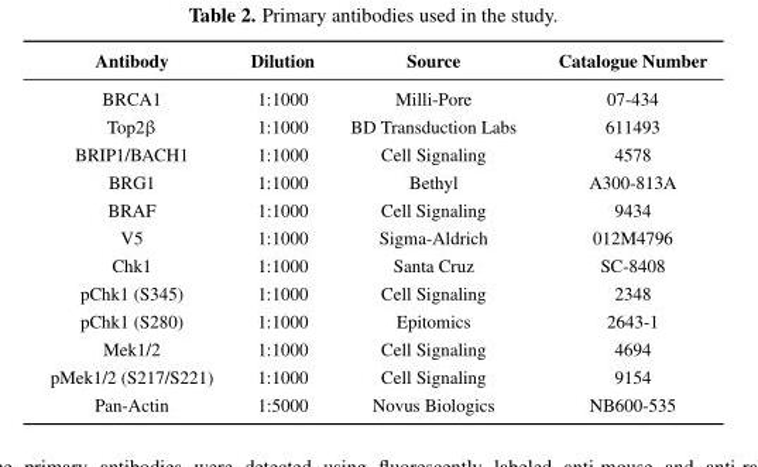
<table><thead><tr><td>Antibody</td><td>Dilution</td><td>Source</td><td>Catalogue Number</td></tr></thead><tbody><tr><td>BRCA1</td><td>1:1000</td><td>Milli-Pore</td><td>07-434</td></tr><tr><td>Top2β</td><td>1:1000</td><td>BD Transduction Labs</td><td>611493</td></tr><tr><td>BRIP1/BACH1</td><td>1:1000</td><td>Cell Signaling</td><td>4578</td></tr><tr><td>BRG1</td><td>1:1000</td><td>Bethyl</td><td>A300-813A</td></tr><tr><td>BRAF</td><td>1:1000</td><td>Cell Signaling</td><td>9434</td></tr><tr><td>V5</td><td>1:1000</td><td>Sigma-Aldrich</td><td>012M4796</td></tr><tr><td>Chk1</td><td>1:1000</td><td>Santa Cruz</td><td>SC-8408</td></tr><tr><td>pChk1 (S345)</td><td>1:1000</td><td>Cell Signaling</td><td>2348</td></tr><tr><td>pChk1 (S280)</td><td>1:1000</td><td>Epitomics</td><td>2643-1</td></tr><tr><td>Mek1/2</td><td>1:1000</td><td>Cell Signaling</td><td>4694</td></tr><tr><td>pMek1/2 (S217/S221)</td><td>1:1000</td><td>Cell Signaling</td><td>9154</td></tr><tr><td>Pan-Actin</td><td>1:5000</td><td>Novus Biologics</td><td>NB600-535</td></tr></tbody></table>